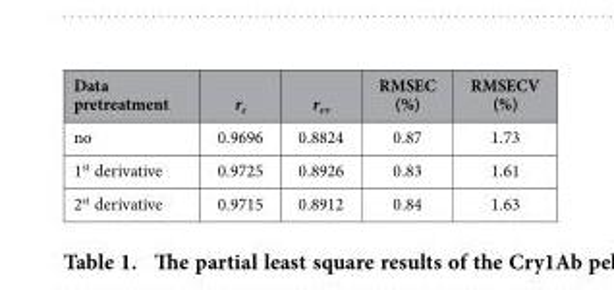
<table><thead><tr><td>Data pretreatment</td><td>r<sub>c</sub></td><td>r<sub>cv</sub></td><td>RMSEC (%)</td><td>RMSECV (%)</td></tr></thead><tbody><tr><td>no</td><td>0.9696</td><td>0.8824</td><td>0.87</td><td>1.73</td></tr><tr><td>1<sup>st</sup> derivative</td><td>0.9725</td><td>0.8926</td><td>0.83</td><td>1.61</td></tr><tr><td>2<sup>st</sup> derivative</td><td>0.9715</td><td>0.8912</td><td>0.84</td><td>1.63</td></tr></tbody></table>